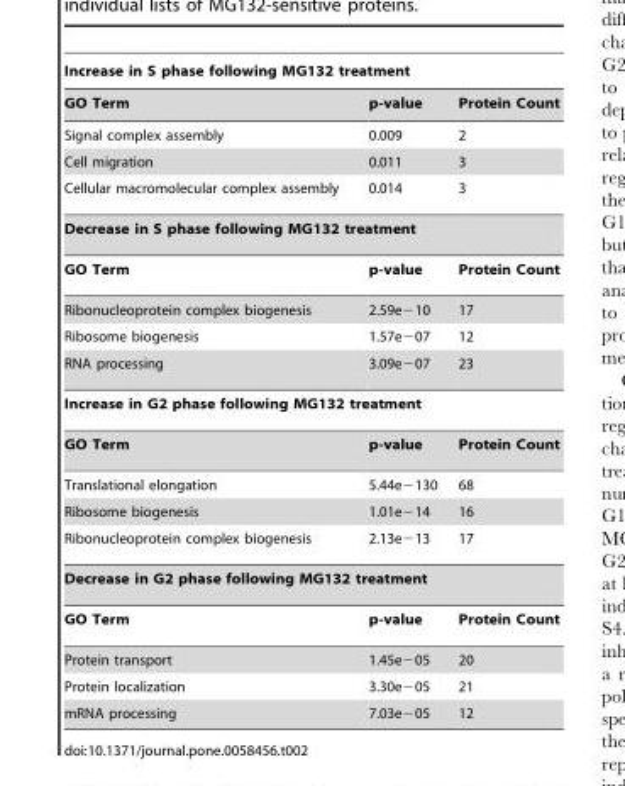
<table><thead><tr><td colspan="3">Increase in S phase following MG132 treatment</td></tr><tr><td>GO Term</td><td>p-value</td><td>Protein Count</td></tr></thead><tbody><tr><td>Signal complex assembly</td><td>0.009</td><td>2</td></tr><tr><td>Cell migration</td><td>0.011</td><td>3</td></tr><tr><td>Cellular macromolecular complex assembly</td><td>0.014</td><td>3</td></tr><tr><td colspan="3">Decrease in S phase following MG132 treatment</td></tr><tr><td>GO Term</td><td>p-value</td><td>Protein Count</td></tr><tr><td>Ribonucleoprotein complex biogenesis</td><td>2.59e−10</td><td>17</td></tr><tr><td>Ribosome biogenesis</td><td>1.57e−07</td><td>12</td></tr><tr><td>RNA processing</td><td>3.09e−07</td><td>23</td></tr><tr><td colspan="3">Increase in G2 phase following MG132 treatment</td></tr><tr><td>GO Term</td><td>p-value</td><td>Protein Count</td></tr><tr><td>Translational elongation</td><td>5.44e−130</td><td>68</td></tr><tr><td>Ribosome biogenesis</td><td>1.01e−14</td><td>16</td></tr><tr><td>Ribonucleoprotein complex biogenesis</td><td>2.13e−13</td><td>17</td></tr><tr><td colspan="3">Decrease in G2 phase following MG132 treatment</td></tr><tr><td>GO Term</td><td>p-value</td><td>Protein Count</td></tr><tr><td>Protein transport</td><td>1.45e−05</td><td>20</td></tr><tr><td>Protein localization</td><td>3.30e−05</td><td>21</td></tr><tr><td>mRNA processing</td><td>7.03e−05</td><td>12</td></tr></tbody></table>